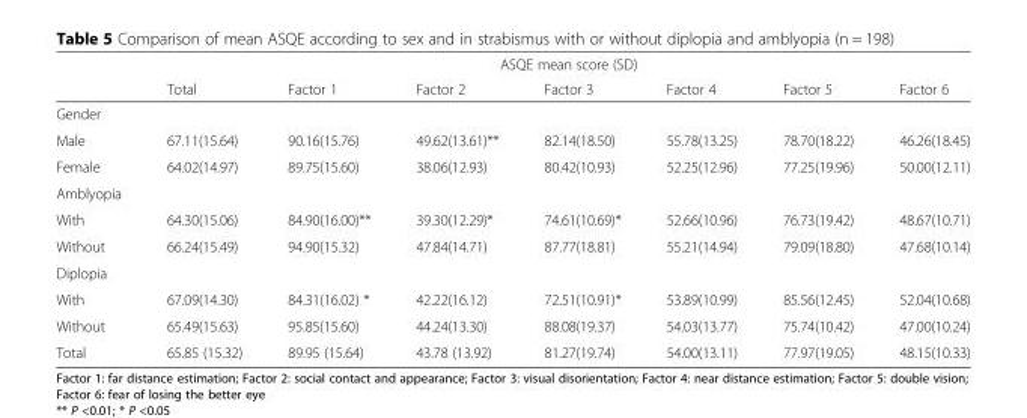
<table><thead><tr><td rowspan="2"></td><td colspan="7">ASQE mean score (SD)</td></tr><tr><td>Total</td><td>Factor 1</td><td>Factor 2</td><td>Factor 3</td><td>Factor 4</td><td>Factor 5</td><td>Factor 6</td></tr></thead><tbody><tr><td colspan="8">Gender</td></tr><tr><td>Male</td><td>67.11(15.64)</td><td>90.16(15.76)</td><td>49.62(13.61)**</td><td>82.14(18.50)</td><td>55.78(13.25)</td><td>78.70(18.22)</td><td>46.26(18.45)</td></tr><tr><td>Female</td><td>64.02(14.97)</td><td>89.75(15.60)</td><td>38.06(12.93)</td><td>80.42(10.93)</td><td>52.25(12.96)</td><td>77.25(19.96)</td><td>50.00(12.11)</td></tr><tr><td colspan="8">Amblyopia</td></tr><tr><td>With</td><td>64.30(15.06)</td><td>84.90(16.00)**</td><td>39.30(12.29)*</td><td>74.61(10.69)*</td><td>52.66(10.96)</td><td>76.73(19.42)</td><td>48.67(10.71)</td></tr><tr><td>Without</td><td>66.24(15.49)</td><td>94.90(15.32)</td><td>47.84(14.71)</td><td>87.77(18.81)</td><td>55.21(14.94)</td><td>79.09(18.80)</td><td>47.68(10.14)</td></tr><tr><td colspan="8">Diplopia</td></tr><tr><td>With</td><td>67.09(14.30)</td><td>84.31(16.02) *</td><td>42.22(16.12)</td><td>72.51(10.91)*</td><td>53.89(10.99)</td><td>85.56(12.45)</td><td>52.04(10.68)</td></tr><tr><td>Without</td><td>65.49(15.63)</td><td>95.85(15.60)</td><td>44.24(13.30)</td><td>88.08(19.37)</td><td>54.03(13.77)</td><td>75.74(10.42)</td><td>47.00(10.24)</td></tr><tr><td>Total</td><td>65.85 (15.32)</td><td>89.95 (15.64)</td><td>43.78 (13.92)</td><td>81.27(19.74)</td><td>54.00(13.11)</td><td>77.97(19.05)</td><td>48.15(10.33)</td></tr></tbody></table>